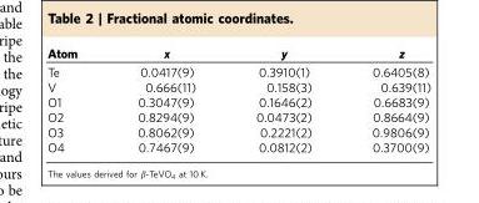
<table><thead><tr><td>Atom</td><td>x</td><td>y</td><td>z</td></tr></thead><tbody><tr><td>Te</td><td>0.0417(9)</td><td>0.3910(1)</td><td>0.6405(8)</td></tr><tr><td>V</td><td>0.666(11)</td><td>0.158(3)</td><td>0.639(11)</td></tr><tr><td>O1</td><td>0.3047(9)</td><td>0.1646(2)</td><td>0.6683(9)</td></tr><tr><td>O2</td><td>0.8294(9)</td><td>0.0473(2)</td><td>0.8664(9)</td></tr><tr><td>O3</td><td>0.8062(9)</td><td>0.2221(2)</td><td>0.9806(9)</td></tr><tr><td>O4</td><td>0.7467(9)</td><td>0.0812(2)</td><td>0.3700(9)</td></tr></tbody></table>